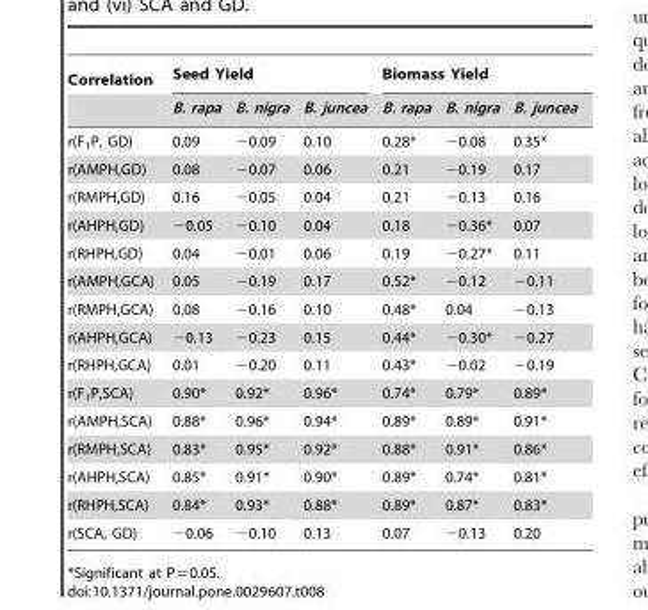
<table><thead><tr><td rowspan="2">Correlation</td><td colspan="3">Seed Yield</td><td colspan="3">Biomass Yield</td></tr><tr><td>B. rapa</td><td>B. nigra</td><td>B. juncea</td><td>B. rapa</td><td>B. nigra</td><td>B. juncea</td></tr></thead><tbody><tr><td>r(F<sub>1</sub>P, GD)</td><td>0.09</td><td>−0.09</td><td>0.10</td><td>0.28*</td><td>−0.08</td><td>0.35*</td></tr><tr><td>r(AMPH,GD)</td><td>0.08</td><td>−0.07</td><td>0.06</td><td>0.21</td><td>−0.19</td><td>0.17</td></tr><tr><td>r(RMPH,GD)</td><td>0.16</td><td>−0.05</td><td>0.04</td><td>0.21</td><td>−0.13</td><td>0.16</td></tr><tr><td>r(AHPH,GD)</td><td>−0.05</td><td>−0.10</td><td>0.04</td><td>0.18</td><td>−0.36*</td><td>0.07</td></tr><tr><td>r(RHPH,GD)</td><td>0.04</td><td>−0.01</td><td>0.06</td><td>0.19</td><td>−0.27*</td><td>0.11</td></tr><tr><td>r(AMPH,GCA)</td><td>0.05</td><td>−0.19</td><td>0.17</td><td>0.52*</td><td>−0.12</td><td>−0.11</td></tr><tr><td>r(RMPH,GCA)</td><td>0.08</td><td>−0.16</td><td>0.10</td><td>0.48*</td><td>0.04</td><td>−0.13</td></tr><tr><td>r(AHPH,GCA)</td><td>−0.13</td><td>−0.23</td><td>0.15</td><td>0.44*</td><td>−0.30*</td><td>−0.27</td></tr><tr><td>r(RHPH,GCA)</td><td>0.01</td><td>−0.20</td><td>0.11</td><td>0.43*</td><td>−0.02</td><td>−0.19</td></tr><tr><td>r(F<sub>1</sub>P,SCA)</td><td>0.90*</td><td>0.92*</td><td>0.96*</td><td>0.74*</td><td>0.79*</td><td>0.89*</td></tr><tr><td>r(AMPH,SCA)</td><td>0.88*</td><td>0.96*</td><td>0.94*</td><td>0.89*</td><td>0.89*</td><td>0.91*</td></tr><tr><td>r(RMPH,SCA)</td><td>0.83*</td><td>0.95*</td><td>0.92*</td><td>0.88*</td><td>0.91*</td><td>0.86*</td></tr><tr><td>r(AHPH,SCA)</td><td>0.85*</td><td>0.91*</td><td>0.90*</td><td>0.89*</td><td>0.74*</td><td>0.81*</td></tr><tr><td>r(RHPH,SCA)</td><td>0.84*</td><td>0.93*</td><td>0.88*</td><td>0.89*</td><td>0.87*</td><td>0.83*</td></tr><tr><td>r(SCA, GD)</td><td>−0.06</td><td>−0.10</td><td>0.13</td><td>0.07</td><td>−0.13</td><td>0.20</td></tr></tbody></table>